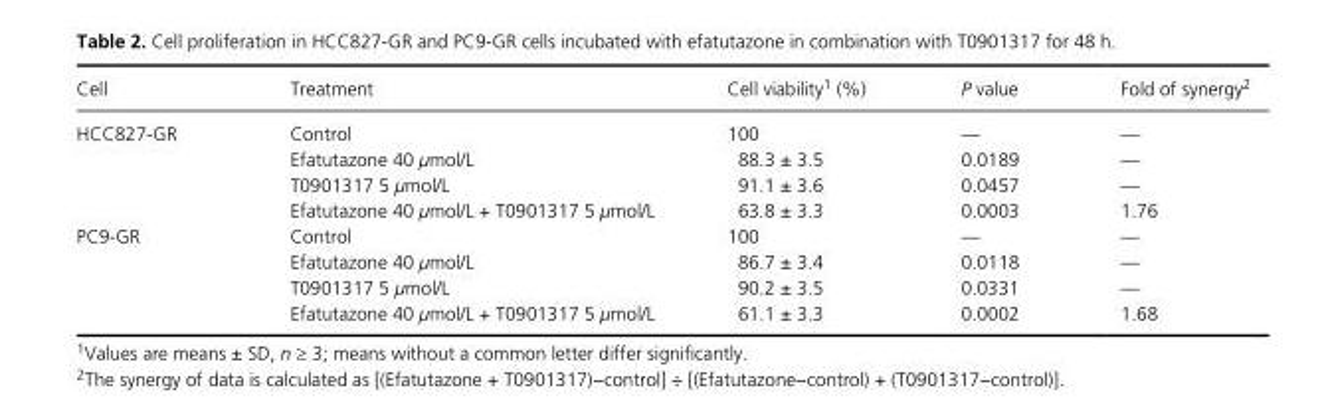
<table><thead><tr><td>Cell</td><td>Treatment</td><td>Cell viability1 (%)</td><td>P value</td><td>Fold of synergy2</td></tr></thead><tbody><tr><td rowspan="4">HCC827- GR</td><td>Control</td><td>100</td><td>—</td><td>—</td></tr><tr><td>Efatutazone 40 μmol/L</td><td>88.3 ± 3.5</td><td>0.0189</td><td>—</td></tr><tr><td>T0901317 5 μmol/L</td><td>91.1 ± 3.6</td><td>0.0457</td><td>—</td></tr><tr><td>Efatutazone 40 μmol/L + T0901317 5 μmol/L</td><td>63.8 ± 3.3</td><td>0.0003</td><td>1.76</td></tr><tr><td rowspan="4">PC9- GR</td><td>Control</td><td>100</td><td>—</td><td>—</td></tr><tr><td>Efatutazone 40 μmol/L</td><td>86.7 ± 3.4</td><td>0.0118</td><td>—</td></tr><tr><td>T0901317 5 μmol/L</td><td>90.2 ± 3.5</td><td>0.0331</td><td>—</td></tr><tr><td>Efatutazone 40 μmol/L + T0901317 5 μmol/L</td><td>61.1 ± 3.3</td><td>0.0002</td><td>1.68</td></tr></tbody></table>